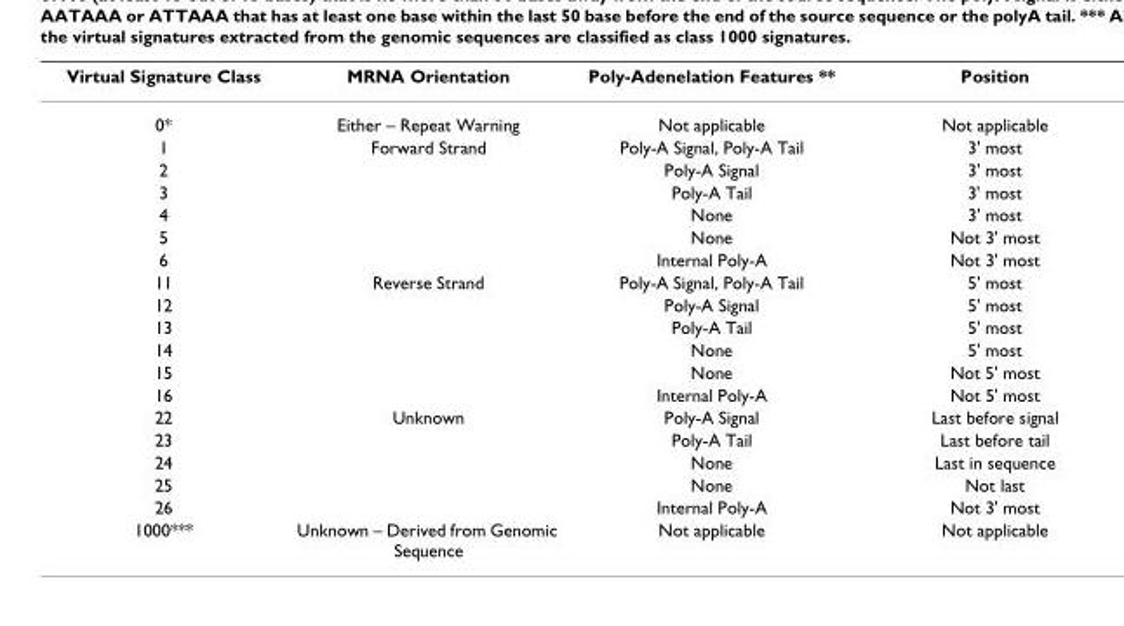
<table><thead><tr><td>Virtual Signature Class</td><td>MRNA Orientation</td><td>Poly-Adenelation Features **</td><td>Position</td></tr></thead><tbody><tr><td>0*</td><td>Either – Repeat Warning</td><td>Not applicable</td><td>Not applicable</td></tr><tr><td>1</td><td>Forward Strand</td><td>Poly-A Signal, Poly-A Tail</td><td>3&#x27; most</td></tr><tr><td>2</td><td></td><td>Poly-A Signal</td><td>3&#x27; most</td></tr><tr><td>3</td><td></td><td>Poly-A Tail</td><td>3&#x27; most</td></tr><tr><td>4</td><td></td><td>None</td><td>3&#x27; most</td></tr><tr><td>5</td><td></td><td>None</td><td>Not 3&#x27; most</td></tr><tr><td>6</td><td></td><td>Internal Poly-A</td><td>Not 3&#x27; most</td></tr><tr><td>11</td><td>Reverse Strand</td><td>Poly-A Signal, Poly-A Tail</td><td>5&#x27; most</td></tr><tr><td>12</td><td></td><td>Poly-A Signal</td><td>5&#x27; most</td></tr><tr><td>13</td><td></td><td>Poly-A Tail</td><td>5&#x27; most</td></tr><tr><td>14</td><td></td><td>None</td><td>5&#x27; most</td></tr><tr><td>15</td><td></td><td>None</td><td>Not 5&#x27; most</td></tr><tr><td>16</td><td></td><td>Internal Poly-A</td><td>Not 5&#x27; most</td></tr><tr><td>22</td><td>Unknown</td><td>Poly-A Signal</td><td>Last before signal</td></tr><tr><td>23</td><td></td><td>Poly-A Tail</td><td>Last before tail</td></tr><tr><td>24</td><td></td><td>None</td><td>Last in sequence</td></tr><tr><td>25</td><td></td><td>None</td><td>Not last</td></tr><tr><td>26</td><td></td><td>Internal Poly-A</td><td>Not 3&#x27; most</td></tr><tr><td>1000***</td><td>Unknown – Derived from Genomic Sequence</td><td>Not applicable</td><td>Not applicable</td></tr></tbody></table>